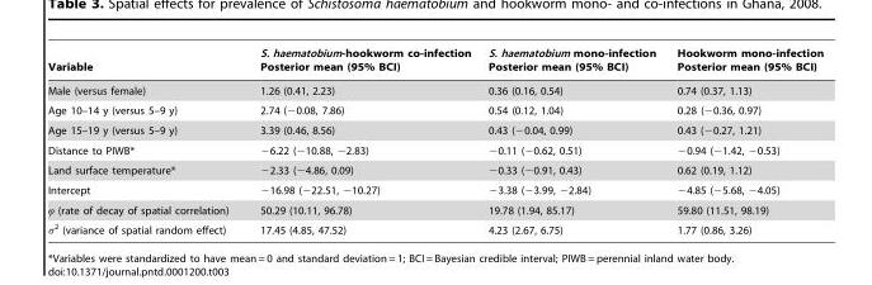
<table><thead><tr><td>Variable</td><td>S. haematobium-hookworm co-infection Posterior mean (95% BCI)</td><td>S. haematobium mono-infection Posterior mean (95% BCI)</td><td>Hookworm mono-infection Posterior mean (95% BCI)</td></tr></thead><tbody><tr><td>Male (versus female)</td><td>1.26 (0.41, 2.23)</td><td>0.36 (0.16, 0.54)</td><td>0.74 (0.37, 1.13)</td></tr><tr><td>Age 10–14 y (versus 5–9 y)</td><td>2.74 (−0.08, 7.86)</td><td>0.54 (0.12, 1.04)</td><td>0.28 (−0.36, 0.97)</td></tr><tr><td>Age 15–19 y (versus 5–9 y)</td><td>3.39 (0.46, 8.56)</td><td>0.43 (−0.04, 0.99)</td><td>0.43 (−0.27, 1.21)</td></tr><tr><td>Distance to PIWB*</td><td>−6.22 (−10.88, −2.83)</td><td>−0.11 (−0.62, 0.51)</td><td>−0.94 (−1.42, −0.53)</td></tr><tr><td>Land surface temperature*</td><td>−2.33 (−4.86, 0.09)</td><td>−0.33 (−0.91, 0.43)</td><td>0.62 (0.19, 1.12)</td></tr><tr><td>Intercept</td><td>−16.98 (−22.51, −10.27)</td><td>−3.38 (−3.99, −2.84)</td><td>−4.85 (−5.68, −4.05)</td></tr><tr><td>ϕ (rate of decay of spatial correlation)</td><td>50.29 (10.11, 96.78)</td><td>19.78 (1.94, 85.17)</td><td>59.80 (11.51, 98.19)</td></tr><tr><td>σ<sup>2</sup> (variance of spatial random effect)</td><td>17.45 (4.85, 47.52)</td><td>4.23 (2.67, 6.75)</td><td>1.77 (0.86, 3.26)</td></tr></tbody></table>